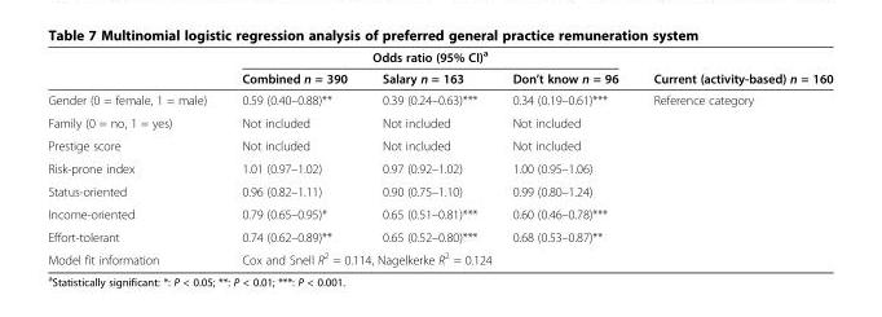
<table><thead><tr><td rowspan="2"></td><td colspan="3">Odds ratio (95% CI)<sup>a</sup></td><td rowspan="2">Current (activity-based) n = 160</td></tr><tr><td>Combined n = 390</td><td>Salary n = 163</td><td>Don’t know n = 96</td></tr></thead><tbody><tr><td>Gender (0 = female, 1 = male)</td><td>0.59 (0.40–0.88)**</td><td>0.39 (0.24–0.63)***</td><td>0.34 (0.19–0.61)***</td><td rowspan="7">Reference category</td></tr><tr><td>Family (0 = no, 1 = yes)</td><td>Not included</td><td>Not included</td><td>Not included</td></tr><tr><td>Prestige score</td><td>Not included</td><td>Not included</td><td>Not included</td></tr><tr><td>Risk-prone index</td><td>1.01 (0.97–1.02)</td><td>0.97 (0.92–1.02)</td><td>1.00 (0.95–1.06)</td></tr><tr><td>Status-oriented</td><td>0.96 (0.82–1.11)</td><td>0.90 (0.75–1.10)</td><td>0.99 (0.80–1.24)</td></tr><tr><td>Income-oriented</td><td>0.79 (0.65–0.95)*</td><td>0.65 (0.51–0.81)***</td><td>0.60 (0.46–0.78)***</td></tr><tr><td>Effort-tolerant</td><td>0.74 (0.62–0.89)**</td><td>0.65 (0.52–0.80)***</td><td>0.68 (0.53–0.87)**</td></tr><tr><td>Model fit information</td><td colspan="4">Cox and Snell R<sup>2</sup> = 0.114, Nagelkerke R<sup>2</sup> = 0.124</td></tr></tbody></table>